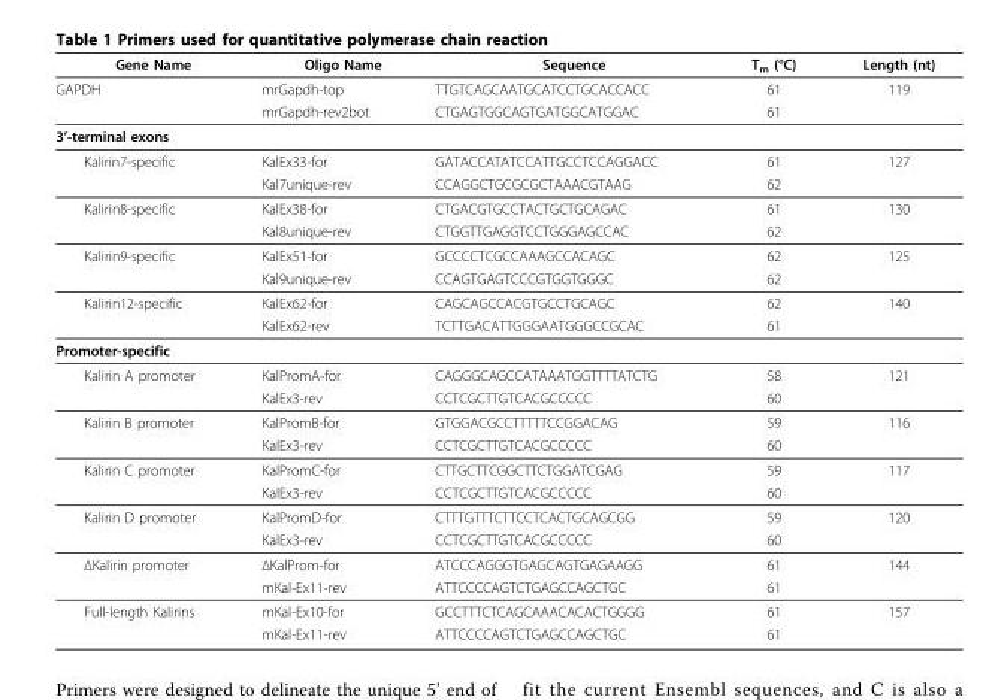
<table><thead><tr><td>Gene Name</td><td>Oligo Name</td><td>Sequence</td><td>T<sub>m</sub> (°C)</td><td>Length (nt)</td></tr></thead><tbody><tr><td rowspan="2">GAPDH</td><td>mrGapdh-top</td><td>TTGTCAGCAATGCATCCTGCACCACC</td><td>61</td><td>119</td></tr><tr><td>mrGapdh-rev2bot</td><td>CTGAGTGGCAGTGATGGCATGGAC</td><td>61</td><td></td></tr><tr><td colspan="5">3’-terminal exons</td></tr><tr><td rowspan="2">Kalirin7-specific</td><td>KalEx33-for</td><td>GATACCATATCCATTGCCTCCAGGACC</td><td>61</td><td>127</td></tr><tr><td>Kal7unique-rev</td><td>CCAGGCTGCGCGCTAAACGTAAG</td><td>62</td><td></td></tr><tr><td rowspan="2">Kalirin8-specific</td><td>KalEx38-for</td><td>CTGACGTGCCTACTGCTGCAGAC</td><td>61</td><td>130</td></tr><tr><td>Kal8unique-rev</td><td>CTGGTTGAGGTCCTGGGAGCCAC</td><td>62</td><td></td></tr><tr><td rowspan="2">Kalirin9-specific</td><td>KalEx51-for</td><td>GCCCCTCGCCAAAGCCACAGC</td><td>62</td><td>125</td></tr><tr><td>Kal9unique-rev</td><td>CCAGTGAGTCCCGTGGTGGGC</td><td>62</td><td></td></tr><tr><td rowspan="2">Kalirin12-specific</td><td>KalEx62-for</td><td>CAGCAGCCACGTGCCTGCAGC</td><td>62</td><td>140</td></tr><tr><td>KalEx62-rev</td><td>TCTTGACATTGGGAATGGGCCGCAC</td><td>61</td><td></td></tr><tr><td colspan="5">Promoter-specific</td></tr><tr><td rowspan="2">Kalirin A promoter</td><td>KalPromA-for</td><td>CAGGGCAGCCATAAATGGTTTTATCTG</td><td>58</td><td>121</td></tr><tr><td>KalEx3-rev</td><td>CCTCGCTTGTCACGCCCCC</td><td>60</td><td></td></tr><tr><td rowspan="2">Kalirin B promoter</td><td>KalPromB-for</td><td>GTGGACGCCTTTTTCCGGACAG</td><td>59</td><td>116</td></tr><tr><td>KalEx3-rev</td><td>CCTCGCTTGTCACGCCCCC</td><td>60</td><td></td></tr><tr><td rowspan="2">Kalirin C promoter</td><td>KalPromC-for</td><td>CTTGCTTCGGCTTCTGGATCGAG</td><td>59</td><td>117</td></tr><tr><td>KalEx3-rev</td><td>CCTCGCTTGTCACGCCCCC</td><td>60</td><td></td></tr><tr><td rowspan="2">Kalirin D promoter</td><td>KalPromD-for</td><td>CTTTGTTTCTTCCTCACTGCAGCGG</td><td>59</td><td>120</td></tr><tr><td>KalEx3-rev</td><td>CCTCGCTTGTCACGCCCCC</td><td>60</td><td></td></tr><tr><td rowspan="2">ΔKalirin promoter</td><td>ΔKalProm-for</td><td>ATCCCAGGGTGAGCAGTGAGAAGG</td><td>61</td><td>144</td></tr><tr><td>mKal-Ex11-rev</td><td>ATTCCCCAGTCTGAGCCAGCTGC</td><td>61</td><td></td></tr><tr><td rowspan="2">Full-length Kalirins</td><td>mKal-Ex10-for</td><td>GCCTTTCTCAGCAAACACACTGGGG</td><td>61</td><td>157</td></tr><tr><td>mKal-Ex11-rev</td><td>ATTCCCCAGTCTGAGCCAGCTGC</td><td>61</td><td></td></tr></tbody></table>